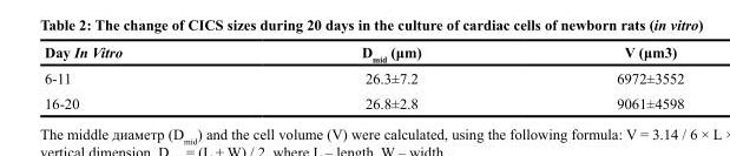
<table><thead><tr><td>Day In Vitro</td><td>D<sub>mid</sub> (μm)</td><td>V (μm3)</td></tr></thead><tbody><tr><td>6-11</td><td>26.3±7.2</td><td>6972±3552</td></tr><tr><td>16-20</td><td>26.8±2.8</td><td>9061±4598</td></tr></tbody></table>